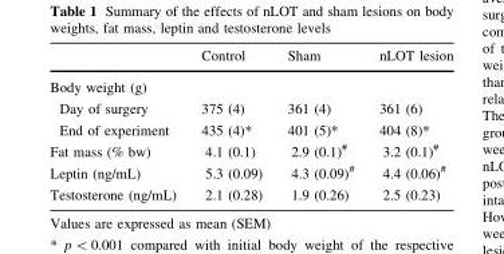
<table><thead><tr><td></td><td>Control</td><td>Sham</td><td>nLOT lesion</td></tr></thead><tbody><tr><td colspan="4">Body weight (g)</td></tr><tr><td>Day of surgery</td><td>375 (4)</td><td>361 (4)</td><td>361 (6)</td></tr><tr><td>End of experiment</td><td>435 (4)*</td><td>401 (5)*</td><td>404 (8)*</td></tr><tr><td>Fat mass (% bw)</td><td>4.1 (0.1)</td><td>2.9 (0.1)<sup>#</sup></td><td>3.2 (0.1)<sup>#</sup></td></tr><tr><td>Leptin (ng/mL)</td><td>5.3 (0.09)</td><td>4.3 (0.09)<sup>#</sup></td><td>4.4 (0.06)<sup>#</sup></td></tr><tr><td>Testosterone (ng/mL)</td><td>2.1 (0.28)</td><td>1.9 (0.26)</td><td>2.5 (0.23)</td></tr></tbody></table>